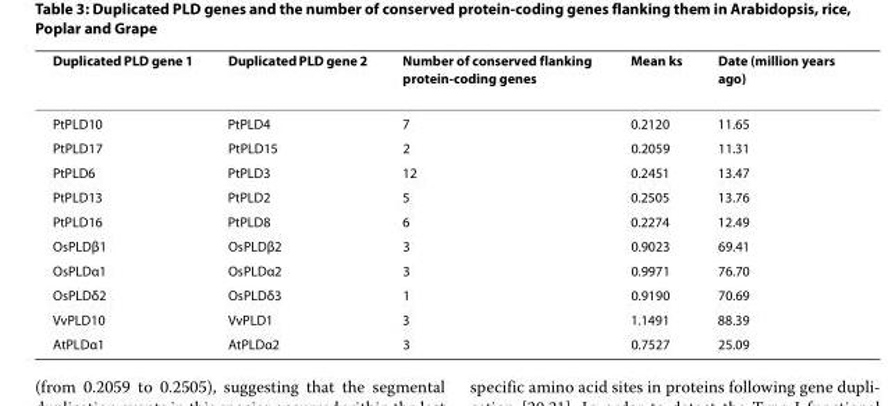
<table><thead><tr><td>Duplicated PLD gene 1</td><td>Duplicated PLD gene 2</td><td>Number of conserved flanking protein-coding genes</td><td>Mean ks</td><td>Date (million years ago)</td></tr></thead><tbody><tr><td>PtPLD10</td><td>PtPLD4</td><td>7</td><td>0.2120</td><td>11.65</td></tr><tr><td>PtPLD17</td><td>PtPLD15</td><td>2</td><td>0.2059</td><td>11.31</td></tr><tr><td>PtPLD6</td><td>PtPLD3</td><td>12</td><td>0.2451</td><td>13.47</td></tr><tr><td>PtPLD13</td><td>PtPLD2</td><td>5</td><td>0.2505</td><td>13.76</td></tr><tr><td>PtPLD16</td><td>PtPLD8</td><td>6</td><td>0.2274</td><td>12.49</td></tr><tr><td>OsPLDβ1</td><td>OsPLDβ2</td><td>3</td><td>0.9023</td><td>69.41</td></tr><tr><td>OsPLDα1</td><td>OsPLDα2</td><td>3</td><td>0.9971</td><td>76.70</td></tr><tr><td>OsPLDδ2</td><td>OsPLDδ3</td><td>1</td><td>0.9190</td><td>70.69</td></tr><tr><td>VvPLD10</td><td>VvPLD1</td><td>3</td><td>1.1491</td><td>88.39</td></tr><tr><td>AtPLDα1</td><td>AtPLDα2</td><td>3</td><td>0.7527</td><td>25.09</td></tr></tbody></table>